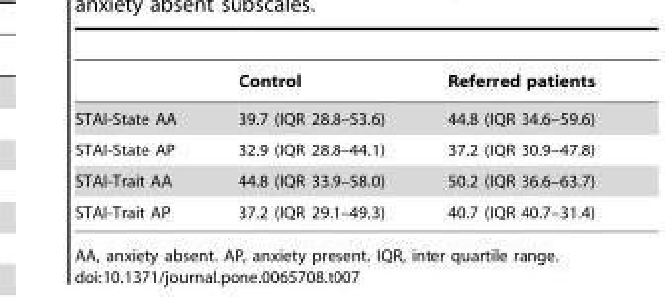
<table><thead><tr><td></td><td>Control</td><td>Referred patients</td></tr></thead><tbody><tr><td>STAI-State AA</td><td>39.7 (IQR 28.8–53.6)</td><td>44.8 (IQR 34.6–59.6)</td></tr><tr><td>STAI-State AP</td><td>32.9 (IQR 28.8–44.1)</td><td>37.2 (IQR 30.9–47.8)</td></tr><tr><td>STAI-Trait AA</td><td>44.8 (IQR 33.9–58.0)</td><td>50.2 (IQR 36.6–63.7)</td></tr><tr><td>STAI-Trait AP</td><td>37.2 (IQR 29.1–49.3)</td><td>40.7 (IQR 40.7–31.4)</td></tr></tbody></table>